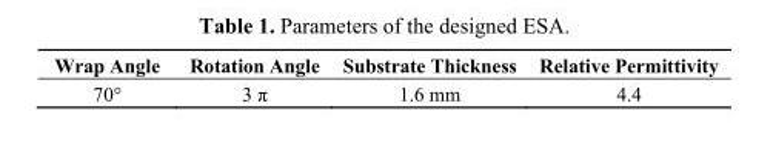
<table><thead><tr><td>Wrap Angle</td><td>Rotation Angle</td><td>Substrate Thickness</td><td>Relative Permittivity</td></tr></thead><tbody><tr><td>70°</td><td>3 π</td><td>1.6 mm</td><td>4.4</td></tr></tbody></table>